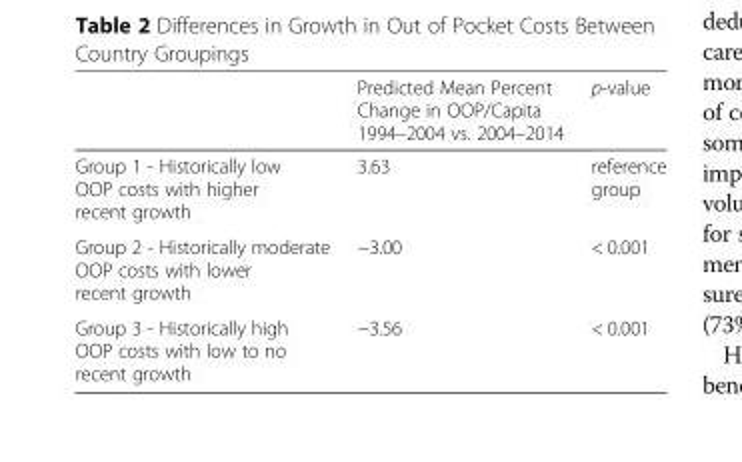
<table><thead><tr><td></td><td>Predicted Mean Percent Change in OOP/Capita 1994–2004 vs. 2004–2014</td><td>p-value</td></tr></thead><tbody><tr><td>Group 1 - Historically low OOP costs with higher recent growth</td><td>3.63</td><td>reference group</td></tr><tr><td>Group 2 - Historically moderate OOP costs with lower recent growth</td><td>−3.00</td><td>&lt; 0.001</td></tr><tr><td>Group 3 - Historically high OOP costs with low to no recent growth</td><td>−3.56</td><td>&lt; 0.001</td></tr></tbody></table>